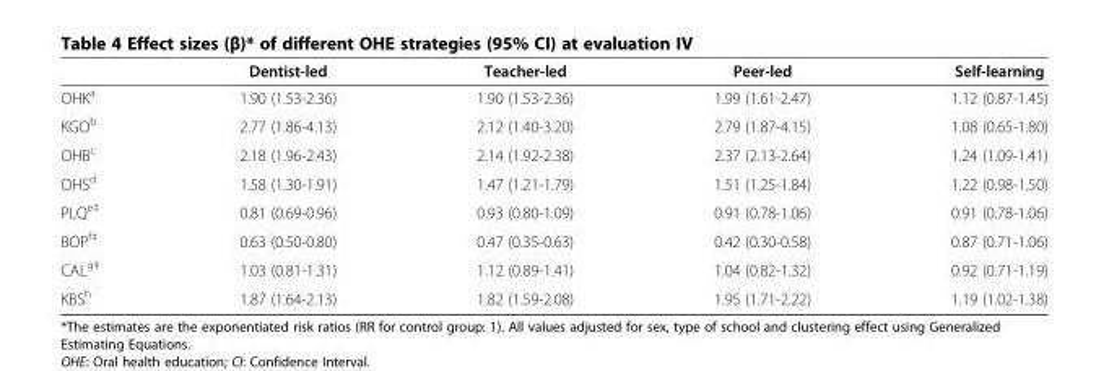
<table><thead><tr><td></td><td>Dentist-led</td><td>Teacher-led</td><td>Peer-led</td><td>Self-learning</td></tr></thead><tbody><tr><td>OHK<sup>a</sup></td><td>1.90 (1.53-2.36)</td><td>1.90 (1.53-2.36)</td><td>1.99 (1.61-2.47)</td><td>1.12 (0.87-1.45)</td></tr><tr><td>KGO<sup>b</sup></td><td>2.77 (1.86-4.13)</td><td>2.12 (1.40-3.20)</td><td>2.79 (1.87-4.15)</td><td>1.08 (0.65-1.80)</td></tr><tr><td>OHB<sup>c</sup></td><td>2.18 (1.96-2.43)</td><td>2.14 (1.92-2.38)</td><td>2.37 (2.13-2.64)</td><td>1.24 (1.09-1.41)</td></tr><tr><td>OHS<sup>d</sup></td><td>1.58 (1.30-1.91)</td><td>1.47 (1.21-1.79)</td><td>1.51 (1.25-1.84)</td><td>1.22 (0.98-1.50)</td></tr><tr><td>PLQ<sup>e‡</sup></td><td>0.81 (0.69-0.96)</td><td>0.93 (0.80-1.09)</td><td>0.91 (0.78-1.06)</td><td>0.91 (0.78-1.06)</td></tr><tr><td>BOP<sup>f‡</sup></td><td>0.63 (0.50-0.80)</td><td>0.47 (0.35-0.63)</td><td>0.42 (0.30-0.58)</td><td>0.87 (0.71-1.06)</td></tr><tr><td>CAL<sup>g‡</sup></td><td>1.03 (0.81-1.31)</td><td>1.12 (0.89-1.41)</td><td>1.04 (0.82-1.32)</td><td>0.92 (0.71-1.19)</td></tr><tr><td>KBS<sup>h</sup></td><td>1.87 (1.64-2.13)</td><td>1.82 (1.59-2.08)</td><td>1.95 (1.71-2.22)</td><td>1.19 (1.02-1.38)</td></tr></tbody></table>